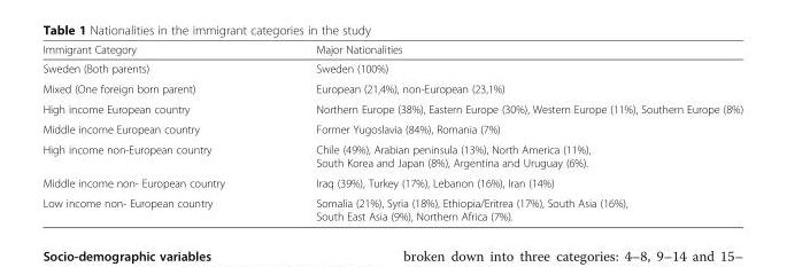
<table><thead><tr><td>Immigrant Category</td><td>Major Nationalities</td></tr></thead><tbody><tr><td>Sweden (Both parents)</td><td>Sweden (100%)</td></tr><tr><td>Mixed (One foreign born parent)</td><td>European (21,4%), non-European (23,1%)</td></tr><tr><td>High income European country</td><td>Northern Europe (38%), Eastern Europe (30%), Western Europe (11%), Southern Europe (8%)</td></tr><tr><td>Middle income European country</td><td>Former Yugoslavia (84%), Romania (7%)</td></tr><tr><td>High income non-European country</td><td>Chile (49%), Arabian peninsula (13%), North America (11%), South Korea and Japan (8%), Argentina and Uruguay (6%).</td></tr><tr><td>Middle income non- European country</td><td>Iraq (39%), Turkey (17%), Lebanon (16%), Iran (14%)</td></tr><tr><td>Low income non- European country</td><td>Somalia (21%), Syria (18%), Ethiopia/Eritrea (17%), South Asia (16%), South East Asia (9%), Northern Africa (7%).</td></tr></tbody></table>